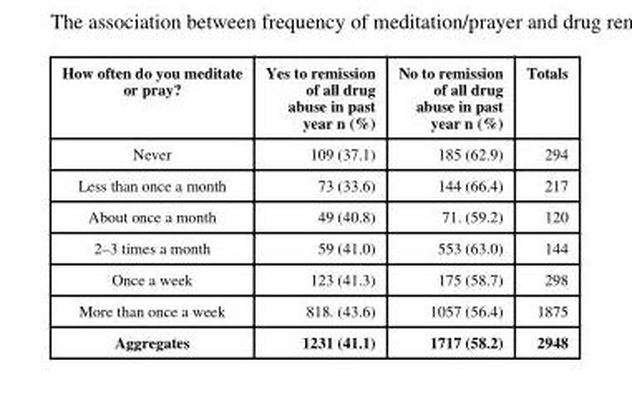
<table><thead><tr><td>How often do you meditate or pray?</td><td>Yes to remission of all drug abuse in past year n (%)</td><td>No to remission of all drug abuse in past year n (%)</td><td>Totals</td></tr></thead><tbody><tr><td>Never</td><td>109 (37.1)</td><td>185 (62.9)</td><td>294</td></tr><tr><td>Less than once a month</td><td>73 (33.6)</td><td>144 (66.4)</td><td>217</td></tr><tr><td>About once a month</td><td>49 (40.8)</td><td>71. (59.2)</td><td>120</td></tr><tr><td>2–3 times a month</td><td>59 (41.0)</td><td>553 (63.0)</td><td>144</td></tr><tr><td>Once a week</td><td>123 (41.3)</td><td>175 (58.7)</td><td>298</td></tr><tr><td>More than once a week</td><td>818. (43.6)</td><td>1057 (56.4)</td><td>1875</td></tr><tr><td>Aggregates</td><td>1231 (41.1)</td><td>1717 (58.2)</td><td>2948</td></tr></tbody></table>